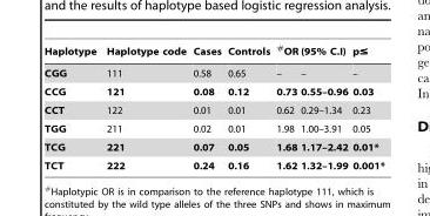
<table><thead><tr><td>Haplotype</td><td>Haplotype code</td><td>Cases</td><td>Controls</td><td>#OR</td><td>(95% C.I)</td><td>p≤</td></tr></thead><tbody><tr><td>CGG</td><td>111</td><td>0.58</td><td>0.65</td><td>–</td><td>–</td><td>–</td></tr><tr><td>CCG</td><td>121</td><td>0.08</td><td>0.12</td><td>0.73</td><td>0.55–0.96</td><td>0.03</td></tr><tr><td>CCT</td><td>122</td><td>0.01</td><td>0.01</td><td>0.62</td><td>0.29–1.34</td><td>0.23</td></tr><tr><td>TGG</td><td>211</td><td>0.02</td><td>0.01</td><td>1.98</td><td>1.00–3.91</td><td>0.05</td></tr><tr><td>TCG</td><td>221</td><td>0.07</td><td>0.05</td><td>1.68</td><td>1.17–2.42</td><td>0.01*</td></tr><tr><td>TCT</td><td>222</td><td>0.24</td><td>0.16</td><td>1.62</td><td>1.32–1.99</td><td>0.001*</td></tr></tbody></table>